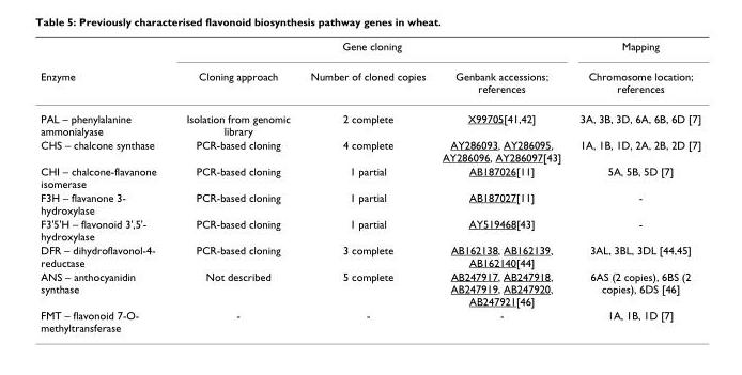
<table><thead><tr><td rowspan="2">Enzyme</td><td colspan="3">Gene cloning</td><td rowspan="2">Mapping Chromosome location; references</td></tr><tr><td>Cloning approach</td><td>Number of cloned copies</td><td>Genbank accessions; references</td></tr></thead><tbody><tr><td>PAL – phenylalanine ammonialyase</td><td>Isolation from genomic library</td><td>2 complete</td><td>X99705[41,42]</td><td>3A, 3B, 3D, 6A, 6B, 6D [7]</td></tr><tr><td>CHS – chalcone synthase</td><td>PCR-based cloning</td><td>4 complete</td><td>AY286093, AY286095, AY286096, AY286097[43]</td><td>1A, 1B, 1D, 2A, 2B, 2D [7]</td></tr><tr><td>CHI – chalcone-flavanone isomerase</td><td>PCR-based cloning</td><td>1 partial</td><td>AB187026[11]</td><td>5A, 5B, 5D [7]</td></tr><tr><td>F3H – flavanone 3- hydroxylase</td><td>PCR-based cloning</td><td>1 partial</td><td>AB187027[11]</td><td>-</td></tr><tr><td>F3&#x27;5&#x27;H – flavonoid 3&#x27;,5&#x27;- hydroxylase</td><td>PCR-based cloning</td><td>1 partial</td><td>AY519468[43]</td><td>-</td></tr><tr><td>DFR – dihydroflavonol-4- reductase</td><td>PCR-based cloning</td><td>3 complete</td><td>AB162138, AB162139, AB162140[44]</td><td>3AL, 3BL, 3DL [44,45]</td></tr><tr><td>ANS – anthocyanidin synthase</td><td>Not described</td><td>5 complete</td><td>AB247917, AB247918, AB247919, AB247920, AB247921[46]</td><td>6AS (2 copies), 6BS (2 copies), 6DS [46]</td></tr><tr><td>FMT – flavonoid 7-O- methyltransferase</td><td>-</td><td>-</td><td>-</td><td>1A, 1B, 1D [7]</td></tr></tbody></table>